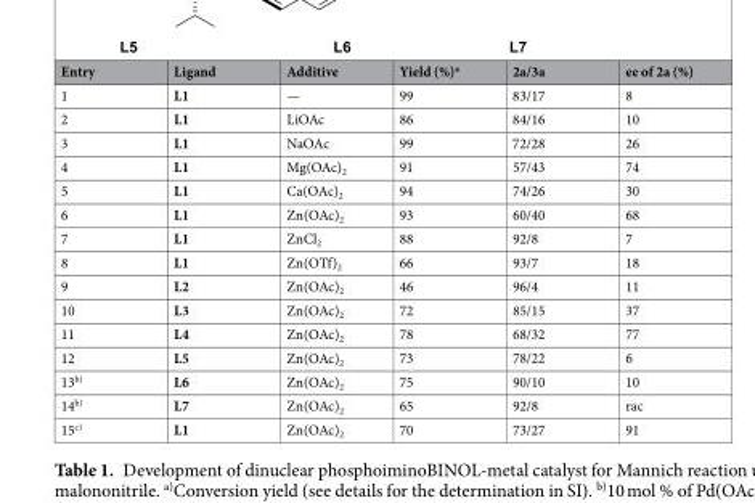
<table><thead><tr><td>Entry</td><td>Ligand</td><td>Additive</td><td>Yield (%)<sup>a</sup></td><td>2a/3a</td><td>ee of 2a (%)</td></tr></thead><tbody><tr><td>1</td><td>L1</td><td>—</td><td>99</td><td>83/17</td><td>8</td></tr><tr><td>2</td><td>L1</td><td>LiOAc</td><td>86</td><td>84/16</td><td>10</td></tr><tr><td>3</td><td>L1</td><td>NaOAc</td><td>99</td><td>72/28</td><td>26</td></tr><tr><td>4</td><td>L1</td><td>Mg(OAc)<sub>2</sub></td><td>91</td><td>57/43</td><td>74</td></tr><tr><td>5</td><td>L1</td><td>Ca(OAc)<sub>2</sub></td><td>94</td><td>74/26</td><td>30</td></tr><tr><td>6</td><td>L1</td><td>Zn(OAc)<sub>2</sub></td><td>93</td><td>60/40</td><td>68</td></tr><tr><td>7</td><td>L1</td><td>ZnCl<sub>2</sub></td><td>88</td><td>92/8</td><td>7</td></tr><tr><td>8</td><td>L1</td><td>Zn(OTf)<sub>2</sub></td><td>66</td><td>93/7</td><td>18</td></tr><tr><td>9</td><td>L2</td><td>Zn(OAc)<sub>2</sub></td><td>46</td><td>96/4</td><td>11</td></tr><tr><td>10</td><td>L3</td><td>Zn(OAc)<sub>2</sub></td><td>72</td><td>85/15</td><td>37</td></tr><tr><td>11</td><td>L4</td><td>Zn(OAc)<sub>2</sub></td><td>78</td><td>68/32</td><td>77</td></tr><tr><td>12</td><td>L5</td><td>Zn(OAc)<sub>2</sub></td><td>73</td><td>78/22</td><td>6</td></tr><tr><td>13<sup>b)</sup></td><td>L6</td><td>Zn(OAc)<sub>2</sub></td><td>75</td><td>90/10</td><td>10</td></tr><tr><td>14<sup>b)</sup></td><td>L7</td><td>Zn(OAc)<sub>2</sub></td><td>65</td><td>92/8</td><td>rac</td></tr><tr><td>15<sup>c)</sup></td><td>L1</td><td>Zn(OAc)<sub>2</sub></td><td>70</td><td>73/27</td><td>91</td></tr></tbody></table>